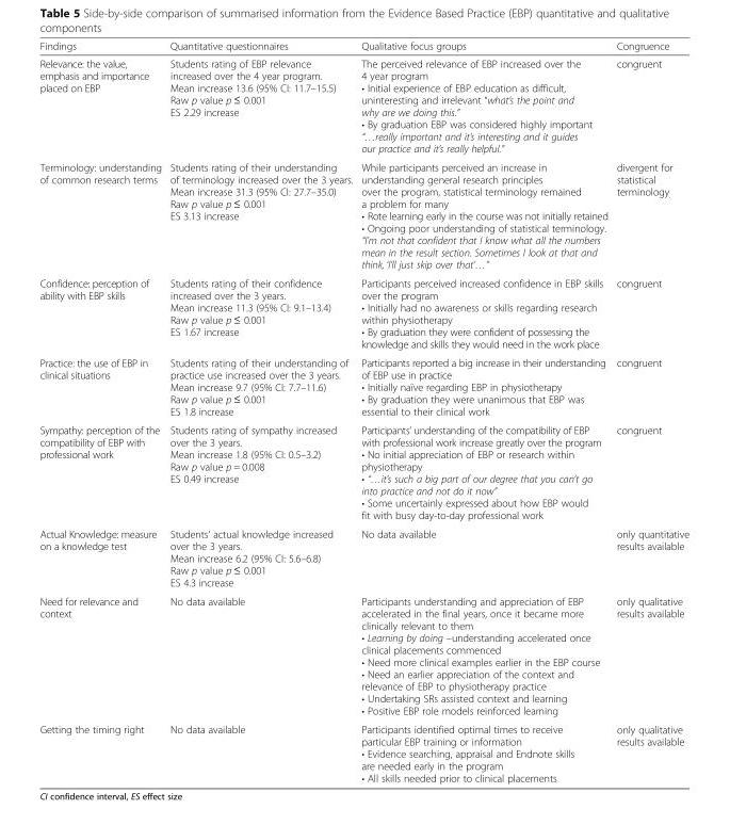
<table><thead><tr><td>Findings</td><td>Quantitative questionnaires</td><td>Qualitative focus groups</td><td>Congruence</td></tr></thead><tbody><tr><td>Relevance: the value, emphasis and importance placed on EBP</td><td>Students rating of EBP relevance increased over the 4 year program. Mean increase 13.6 (95% CI: 11.7–15.5) Raw p value p ≤ 0.001 ES 2.29 increase</td><td>The perceived relevance of EBP increased over the 4 year program • Initial experience of EBP education as difficult, uninteresting and irrelevant “what’s the point and why are we doing this.” • By graduation EBP was considered highly important “…really important and it’s interesting and it guides our practice and it’s really helpful.”</td><td>congruent</td></tr><tr><td>Terminology: understanding of common research terms</td><td>Students rating of their understanding of terminology increased over the 3 years. Mean increase 31.3 (95% CI: 27.7–35.0) Raw p value p ≤ 0.001 ES 3.13 increase</td><td>While participants perceived an increase in understanding general research principles over the program, statistical terminology remained a problem for many • Rote learning early in the course was not initially retained • Ongoing poor understanding of statistical terminology. “I’m not that confident that I know what all the numbers mean in the result section. Sometimes I look at that and think, ‘I’ll just skip over that’…”</td><td>divergent for statistical terminology</td></tr><tr><td>Confidence: perception of ability with EBP skills</td><td>Students rating of their confidence increased over the 3 years. Mean increase 11.3 (95% CI: 9.1–13.4) Raw p value p ≤ 0.001 ES 1.67 increase</td><td>Participants perceived increased confidence in EBP skills over the program • Initially had no awareness or skills regarding research within physiotherapy • By graduation they were confident of possessing the knowledge and skills they would need in the work place</td><td>congruent</td></tr><tr><td>Practice: the use of EBP in clinical situations</td><td>Students rating of their understanding of practice use increased over the 3 years. Mean increase 9.7 (95% CI: 7.7–11.6) Raw p value p ≤ 0.001 ES 1.8 increase</td><td>Participants reported a big increase in their understanding of EBP use in practice • Initially naïve regarding EBP in physiotherapy • By graduation they were unanimous that EBP was essential to their clinical work</td><td>congruent</td></tr><tr><td>Sympathy: perception of the compatibility of EBP with professional work</td><td>Students rating of sympathy increased over the 3 years. Mean increase 1.8 (95% CI: 0.5–3.2) Raw p value p = 0.008 ES 0.49 increase</td><td>Participants’ understanding of the compatibility of EBP with professional work increase greatly over the program • No initial appreciation of EBP or research within physiotherapy • “…it’s such a big part of our degree that you can’t go into practice and not do it now” • Some uncertainly expressed about how EBP would fit with busy day-to-day professional work</td><td>congruent</td></tr><tr><td>Actual Knowledge: measure on a knowledge test</td><td>Students’ actual knowledge increased over the 3 years. Mean increase 6.2 (95% CI: 5.6–6.8) Raw p value p ≤ 0.001 ES 4.3 increase</td><td>No data available</td><td>only quantitative results available</td></tr><tr><td>Need for relevance and context</td><td>No data available</td><td>Participants understanding and appreciation of EBP accelerated in the final years, once it became more clinically relevant to them • Learning by doing –understanding accelerated once clinical placements commenced • Need more clinical examples earlier in the EBP course • Need an earlier appreciation of the context and relevance of EBP to physiotherapy practice • Undertaking SRs assisted context and learning • Positive EBP role models reinforced learning</td><td>only qualitative results available</td></tr><tr><td>Getting the timing right</td><td>No data available</td><td>Participants identified optimal times to receive particular EBP training or information • Evidence searching, appraisal and Endnote skills are needed early in the program • All skills needed prior to clinical placements</td><td>only qualitative results available</td></tr></tbody></table>